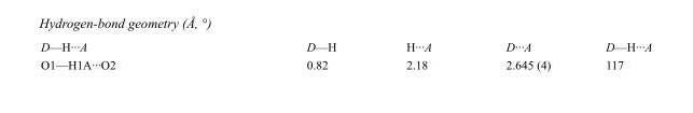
<table><tbody><tr><td>D—H···A</td><td>D—H</td><td>H···A</td><td>D···A</td><td>D—H···A</td></tr><tr><td>O1—H1A···O2</td><td>0.82</td><td>2.18</td><td>2.645 (4)</td><td>117</td></tr></tbody></table>